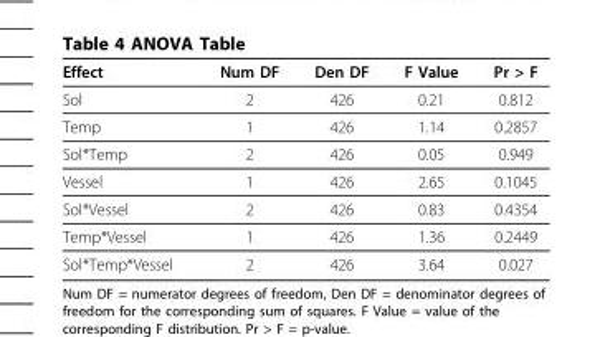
<table><thead><tr><td>Effect</td><td>Num DF</td><td>Den DF</td><td>F Value</td><td>Pr &gt; F</td></tr></thead><tbody><tr><td>Sol</td><td>2</td><td>426</td><td>0.21</td><td>0.812</td></tr><tr><td>Temp</td><td>1</td><td>426</td><td>1.14</td><td>0.2857</td></tr><tr><td>Sol*Temp</td><td>2</td><td>426</td><td>0.05</td><td>0.949</td></tr><tr><td>Vessel</td><td>1</td><td>426</td><td>2.65</td><td>0.1045</td></tr><tr><td>Sol*Vessel</td><td>2</td><td>426</td><td>0.83</td><td>0.4354</td></tr><tr><td>Temp*Vessel</td><td>1</td><td>426</td><td>1.36</td><td>0.2449</td></tr><tr><td>Sol*Temp*Vessel</td><td>2</td><td>426</td><td>3.64</td><td>0.027</td></tr></tbody></table>